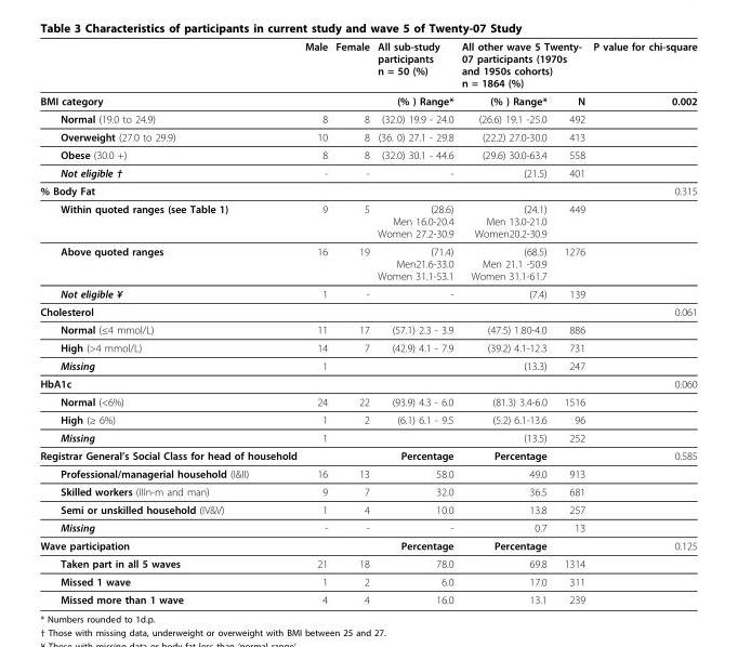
<table><thead><tr><td rowspan="2">BMI category</td><td rowspan="2">Male</td><td rowspan="2">Female</td><td rowspan="2">All sub-study participants n = 50 (%) (% ) Range*</td><td colspan="2">All other wave 5 Twenty- 07 participants (1970s and 1950s cohorts) n = 1864 (%)</td><td rowspan="2">P value for chi-square 0.002</td></tr><tr><td>(% ) Range*</td><td>N</td></tr></thead><tbody><tr><td>Normal (19.0 to 24.9)</td><td>8</td><td>8</td><td>(32.0) 19.9 - 24.0</td><td>(26.6) 19.1 -25.0</td><td>492</td><td></td></tr><tr><td>Overweight (27.0 to 29.9)</td><td>10</td><td>8</td><td>(36. 0) 27.1 - 29.8</td><td>(22.2) 27.0-30.0</td><td>413</td><td></td></tr><tr><td>Obese (30.0 +)</td><td>8</td><td>8</td><td>(32.0) 30.1 - 44.6</td><td>(29.6) 30.0-63.4</td><td>558</td><td></td></tr><tr><td>Not eligible †</td><td>-</td><td>-</td><td>-</td><td>(21.5)</td><td>401</td><td></td></tr><tr><td>% Body Fat</td><td></td><td></td><td></td><td></td><td></td><td>0.315</td></tr><tr><td>Within quoted ranges (see Table 1)</td><td>9</td><td>5</td><td>(28.6) Men 16.0-20.4 Women 27.2-30.9</td><td>(24.1) Men 13.0-21.0 Women20.2-30.9</td><td>449</td><td></td></tr><tr><td>Above quoted ranges</td><td>16</td><td>19</td><td>(71.4) Men21.6-33.0 Women 31.1-53.1</td><td>(68.5) Men 21.1 -50.9 Women 31.1-61.7</td><td>1276</td><td></td></tr><tr><td>Not eligible ¥</td><td>1</td><td>-</td><td>-</td><td>(7.4)</td><td>139</td><td></td></tr><tr><td>Cholesterol</td><td></td><td></td><td></td><td></td><td></td><td>0.061</td></tr><tr><td>Normal (≤4 mmol/L)</td><td>11</td><td>17</td><td>(57.1) 2.3 - 3.9</td><td>(47.5) 1.80-4.0</td><td>886</td><td></td></tr><tr><td>High (&gt;4 mmol/L)</td><td>14</td><td>7</td><td>(42.9) 4.1 - 7.9</td><td>(39.2) 4.1-12.3</td><td>731</td><td></td></tr><tr><td>Missing</td><td>1</td><td></td><td></td><td>(13.3)</td><td>247</td><td></td></tr><tr><td>HbA1c</td><td></td><td></td><td></td><td></td><td></td><td>0.060</td></tr><tr><td>Normal (&lt;6%)</td><td>24</td><td>22</td><td>(93.9) 4.3 - 6.0</td><td>(81.3) 3.4-6.0</td><td>1516</td><td></td></tr><tr><td>High (≥ 6%)</td><td>1</td><td>2</td><td>(6.1) 6.1 - 9.5</td><td>(5.2) 6.1-13.6</td><td>96</td><td></td></tr><tr><td>Missing</td><td>1</td><td></td><td></td><td>(13.5)</td><td>252</td><td></td></tr><tr><td>Registrar General’s Social Class for head of household</td><td></td><td></td><td>Percentage</td><td>Percentage</td><td></td><td>0.585</td></tr><tr><td>Professional/managerial household (I&amp;II)</td><td>16</td><td>13</td><td>58.0</td><td>49.0</td><td>913</td><td></td></tr><tr><td>Skilled workers (IIIn-m and man)</td><td>9</td><td>7</td><td>32.0</td><td>36.5</td><td>681</td><td></td></tr><tr><td>Semi or unskilled household (IV&amp;V)</td><td>1</td><td>4</td><td>10.0</td><td>13.8</td><td>257</td><td></td></tr><tr><td>Missing</td><td>-</td><td>-</td><td>-</td><td>0.7</td><td>13</td><td></td></tr><tr><td>Wave participation</td><td></td><td></td><td>Percentage</td><td>Percentage</td><td></td><td>0.125</td></tr><tr><td>Taken part in all 5 waves</td><td>21</td><td>18</td><td>78.0</td><td>69.8</td><td>1314</td><td></td></tr><tr><td>Missed 1 wave</td><td>1</td><td>2</td><td>6.0</td><td>17.0</td><td>311</td><td></td></tr><tr><td>Missed more than 1 wave</td><td>4</td><td>4</td><td>16.0</td><td>13.1</td><td>239</td><td></td></tr></tbody></table>